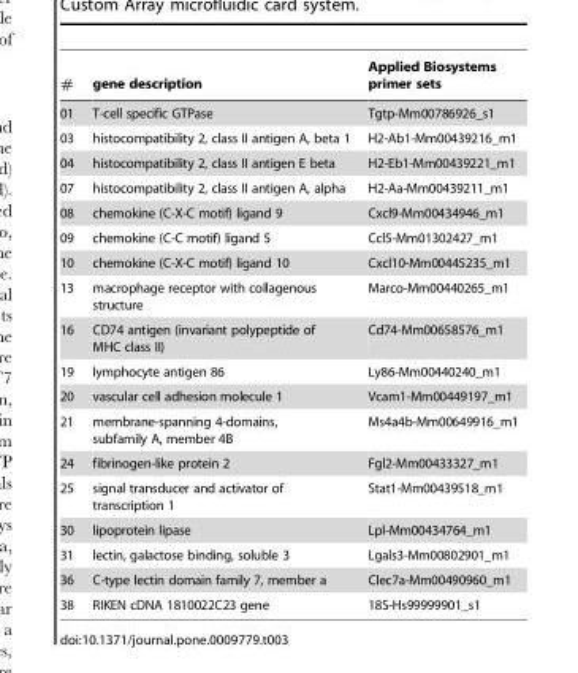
<table><thead><tr><td>#</td><td>gene description</td><td>Applied Biosystems primer sets</td></tr></thead><tbody><tr><td>01</td><td>T-cell specific GTPase</td><td>Tgtp-Mm00786926_s1</td></tr><tr><td>03</td><td>histocompatibility 2, class II antigen A, beta 1</td><td>H2-Ab1-Mm00439216_m1</td></tr><tr><td>04</td><td>histocompatibility 2, class II antigen E beta</td><td>H2-Eb1-Mm00439221_m1</td></tr><tr><td>07</td><td>histocompatibility 2, class II antigen A, alpha</td><td>H2-Aa-Mm00439211_m1</td></tr><tr><td>08</td><td>chemokine (C-X-C motif) ligand 9</td><td>Cxcl9-Mm00434946_m1</td></tr><tr><td>09</td><td>chemokine (C-C motif) ligand 5</td><td>Ccl5-Mm01302427_m1</td></tr><tr><td>10</td><td>chemokine (C-X-C motif) ligand 10</td><td>Cxcl10-Mm00445235_m1</td></tr><tr><td>13</td><td>macrophage receptor with collagenous structure</td><td>Marco-Mm00440265_m1</td></tr><tr><td>16</td><td>CD74 antigen (invariant polypeptide of MHC class II)</td><td>Cd74-Mm00658576_m1</td></tr><tr><td>19</td><td>lymphocyte antigen 86</td><td>Ly86-Mm00440240_m1</td></tr><tr><td>20</td><td>vascular cell adhesion molecule 1</td><td>Vcam1-Mm00449197_m1</td></tr><tr><td>21</td><td>membrane-spanning 4-domains, subfamily A, member 4B</td><td>Ms4a4b-Mm00649916_m1</td></tr><tr><td>24</td><td>fibrinogen-like protein 2</td><td>Fgl2-Mm00433327_m1</td></tr><tr><td>25</td><td>signal transducer and activator of transcription 1</td><td>Stat1-Mm00439518_m1</td></tr><tr><td>30</td><td>lipoprotein lipase</td><td>Lpl-Mm00434764_m1</td></tr><tr><td>31</td><td>lectin, galactose binding, soluble 3</td><td>Lgals3-Mm00802901_m1</td></tr><tr><td>36</td><td>C-type lectin domain family 7, member a</td><td>Clec7a-Mm00490960_m1</td></tr><tr><td>38</td><td>RIKEN cDNA 1810022C23 gene</td><td>18S-Hs99999901_s1</td></tr></tbody></table>